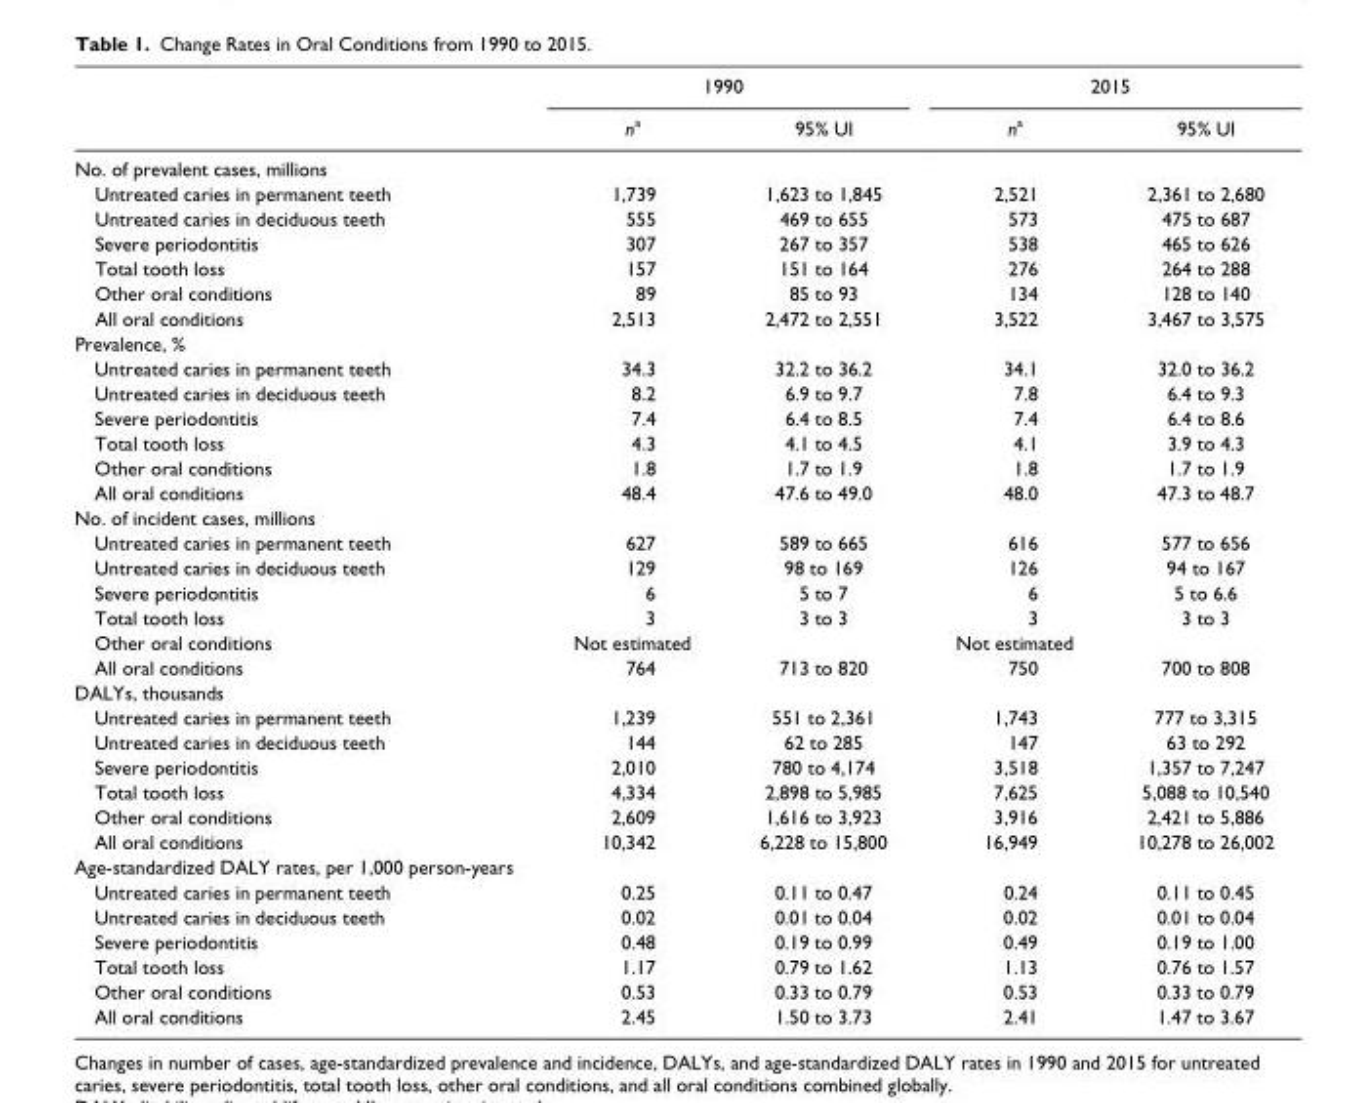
<table><thead><tr><td rowspan="2"></td><td colspan="2">1990</td><td colspan="2">2015</td></tr><tr><td>n<sup>a</sup></td><td>95% UI</td><td>n<sup>a</sup></td><td>95% UI</td></tr></thead><tbody><tr><td colspan="5">No. of prevalent cases, millions</td></tr><tr><td>Untreated caries in permanent teeth</td><td>1,739</td><td>1,623 to 1,845</td><td>2,521</td><td>2,361 to 2,680</td></tr><tr><td>Untreated caries in deciduous teeth</td><td>555</td><td>469 to 655</td><td>573</td><td>475 to 687</td></tr><tr><td>Severe periodontitis</td><td>307</td><td>267 to 357</td><td>538</td><td>465 to 626</td></tr><tr><td>Total tooth loss</td><td>157</td><td>151 to 164</td><td>276</td><td>264 to 288</td></tr><tr><td>Other oral conditions</td><td>89</td><td>85 to 93</td><td>134</td><td>128 to 140</td></tr><tr><td>All oral conditions</td><td>2,513</td><td>2,472 to 2,551</td><td>3,522</td><td>3,467 to 3,575</td></tr><tr><td colspan="5">Prevalence, %</td></tr><tr><td>Untreated caries in permanent teeth</td><td>34.3</td><td>32.2 to 36.2</td><td>34.1</td><td>32.0 to 36.2</td></tr><tr><td>Untreated caries in deciduous teeth</td><td>8.2</td><td>6.9 to 9.7</td><td>7.8</td><td>6.4 to 9.3</td></tr><tr><td>Severe periodontitis</td><td>7.4</td><td>6.4 to 8.5</td><td>7.4</td><td>6.4 to 8.6</td></tr><tr><td>Total tooth loss</td><td>4.3</td><td>4.1 to 4.5</td><td>4.1</td><td>3.9 to 4.3</td></tr><tr><td>Other oral conditions</td><td>1.8</td><td>1.7 to 1.9</td><td>1.8</td><td>1.7 to 1.9</td></tr><tr><td>All oral conditions</td><td>48.4</td><td>47.6 to 49.0</td><td>48.0</td><td>47.3 to 48.7</td></tr><tr><td colspan="5">No. of incident cases, millions</td></tr><tr><td>Untreated caries in permanent teeth</td><td>627</td><td>589 to 665</td><td>616</td><td>577 to 656</td></tr><tr><td>Untreated caries in deciduous teeth</td><td>129</td><td>98 to 169</td><td>126</td><td>94 to 167</td></tr><tr><td>Severe periodontitis</td><td>6</td><td>5 to 7</td><td>6</td><td>5 to 6.6</td></tr><tr><td>Total tooth loss</td><td>3</td><td>3 to 3</td><td>3</td><td>3 to 3</td></tr><tr><td>Other oral conditions</td><td>Not estimated</td><td></td><td>Not estimated</td><td></td></tr><tr><td>All oral conditions</td><td>764</td><td>713 to 820</td><td>750</td><td>700 to 808</td></tr><tr><td colspan="5">DALYs, thousands</td></tr><tr><td>Untreated caries in permanent teeth</td><td>1,239</td><td>551 to 2,361</td><td>1,743</td><td>777 to 3,315</td></tr><tr><td>Untreated caries in deciduous teeth</td><td>144</td><td>62 to 285</td><td>147</td><td>63 to 292</td></tr><tr><td>Severe periodontitis</td><td>2,010</td><td>780 to 4,174</td><td>3,518</td><td>1,357 to 7,247</td></tr><tr><td>Total tooth loss</td><td>4,334</td><td>2,898 to 5,985</td><td>7,625</td><td>5,088 to 10,540</td></tr><tr><td>Other oral conditions</td><td>2,609</td><td>1,616 to 3,923</td><td>3,916</td><td>2,421 to 5,886</td></tr><tr><td>All oral conditions</td><td>10,342</td><td>6,228 to 15,800</td><td>16,949</td><td>10,278 to 26,002</td></tr><tr><td colspan="5">Age-standardized DALY rates, per 1,000 person-years</td></tr><tr><td>Untreated caries in permanent teeth</td><td>0.25</td><td>0.11 to 0.47</td><td>0.24</td><td>0.11 to 0.45</td></tr><tr><td>Untreated caries in deciduous teeth</td><td>0.02</td><td>0.01 to 0.04</td><td>0.02</td><td>0.01 to 0.04</td></tr><tr><td>Severe periodontitis</td><td>0.48</td><td>0.19 to 0.99</td><td>0.49</td><td>0.19 to 1.00</td></tr><tr><td>Total tooth loss</td><td>1.17</td><td>0.79 to 1.62</td><td>1.13</td><td>0.76 to 1.57</td></tr><tr><td>Other oral conditions</td><td>0.53</td><td>0.33 to 0.79</td><td>0.53</td><td>0.33 to 0.79</td></tr><tr><td>All oral conditions</td><td>2.45</td><td>1.50 to 3.73</td><td>2.41</td><td>1.47 to 3.67</td></tr></tbody></table>